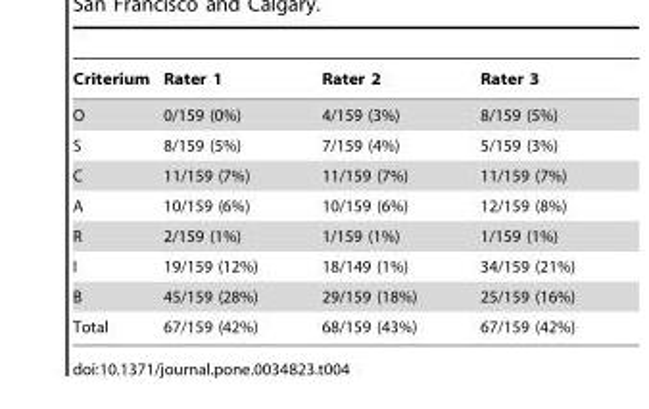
<table><thead><tr><td>Criterium</td><td>Rater 1</td><td>Rater 2</td><td>Rater 3</td></tr></thead><tbody><tr><td>O</td><td>0/159 (0%)</td><td>4/159 (3%)</td><td>8/159 (5%)</td></tr><tr><td>S</td><td>8/159 (5%)</td><td>7/159 (4%)</td><td>5/159 (3%)</td></tr><tr><td>C</td><td>11/159 (7%)</td><td>11/159 (7%)</td><td>11/159 (7%)</td></tr><tr><td>A</td><td>10/159 (6%)</td><td>10/159 (6%)</td><td>12/159 (8%)</td></tr><tr><td>R</td><td>2/159 (1%)</td><td>1/159 (1%)</td><td>1/159 (1%)</td></tr><tr><td>I</td><td>19/159 (12%)</td><td>18/149 (1%)</td><td>34/159 (21%)</td></tr><tr><td>B</td><td>45/159 (28%)</td><td>29/159 (18%)</td><td>25/159 (16%)</td></tr><tr><td>Total</td><td>67/159 (42%)</td><td>68/159 (43%)</td><td>67/159 (42%)</td></tr></tbody></table>